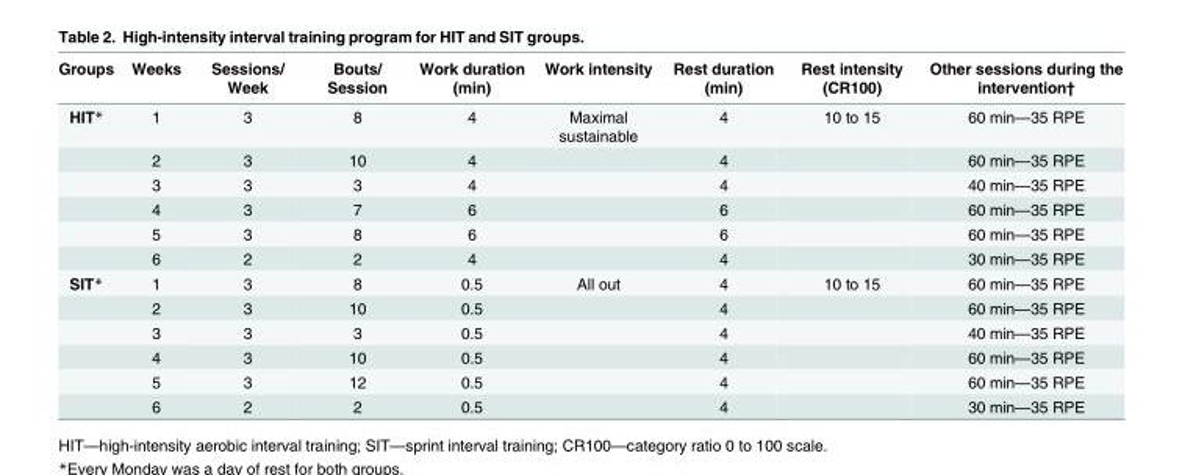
<table><thead><tr><td>Groups</td><td>Weeks</td><td>Sessions/ Week</td><td>Bouts/ Session</td><td>Work duration (min)</td><td>Work intensity</td><td>Rest duration (min)</td><td>Rest intensity (CR100)</td><td>Other sessions during the intervention†</td></tr></thead><tbody><tr><td rowspan="6">HIT*</td><td>1</td><td>3</td><td>8</td><td>4</td><td>Maximal sustainable</td><td>4</td><td>10 to 15</td><td>60 min—35 RPE</td></tr><tr><td>2</td><td>3</td><td>10</td><td>4</td><td></td><td>4</td><td></td><td>60 min—35 RPE</td></tr><tr><td>3</td><td>3</td><td>3</td><td>4</td><td></td><td>4</td><td></td><td>40 min—35 RPE</td></tr><tr><td>4</td><td>3</td><td>7</td><td>6</td><td></td><td>6</td><td></td><td>60 min—35 RPE</td></tr><tr><td>5</td><td>3</td><td>8</td><td>6</td><td></td><td>6</td><td></td><td>60 min—35 RPE</td></tr><tr><td>6</td><td>2</td><td>2</td><td>4</td><td></td><td>4</td><td></td><td>30 min—35 RPE</td></tr><tr><td rowspan="6">SIT*</td><td>1</td><td>3</td><td>8</td><td>0.5</td><td>All out</td><td>4</td><td>10 to 15</td><td>60 min—35 RPE</td></tr><tr><td>2</td><td>3</td><td>10</td><td>0.5</td><td></td><td>4</td><td></td><td>60 min—35 RPE</td></tr><tr><td>3</td><td>3</td><td>3</td><td>0.5</td><td></td><td>4</td><td></td><td>40 min—35 RPE</td></tr><tr><td>4</td><td>3</td><td>10</td><td>0.5</td><td></td><td>4</td><td></td><td>60 min—35 RPE</td></tr><tr><td>5</td><td>3</td><td>12</td><td>0.5</td><td></td><td>4</td><td></td><td>60 min—35 RPE</td></tr><tr><td>6</td><td>2</td><td>2</td><td>0.5</td><td></td><td>4</td><td></td><td>30 min—35 RPE</td></tr></tbody></table>